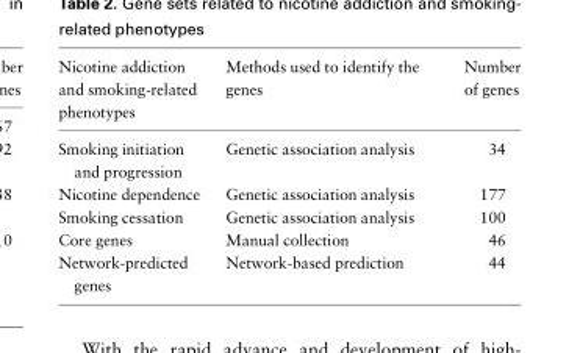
<table><thead><tr><td>Nicotine addiction and smoking-related phenotypes</td><td>Methods used to identify the genes</td><td>Number of genes</td></tr></thead><tbody><tr><td>Smoking initiation and progression</td><td>Genetic association analysis</td><td>34</td></tr><tr><td>Nicotine dependence</td><td>Genetic association analysis</td><td>177</td></tr><tr><td>Smoking cessation</td><td>Genetic association analysis</td><td>100</td></tr><tr><td>Core genes</td><td>Manual collection</td><td>46</td></tr><tr><td>Network-predicted genes</td><td>Network-based prediction</td><td>44</td></tr></tbody></table>